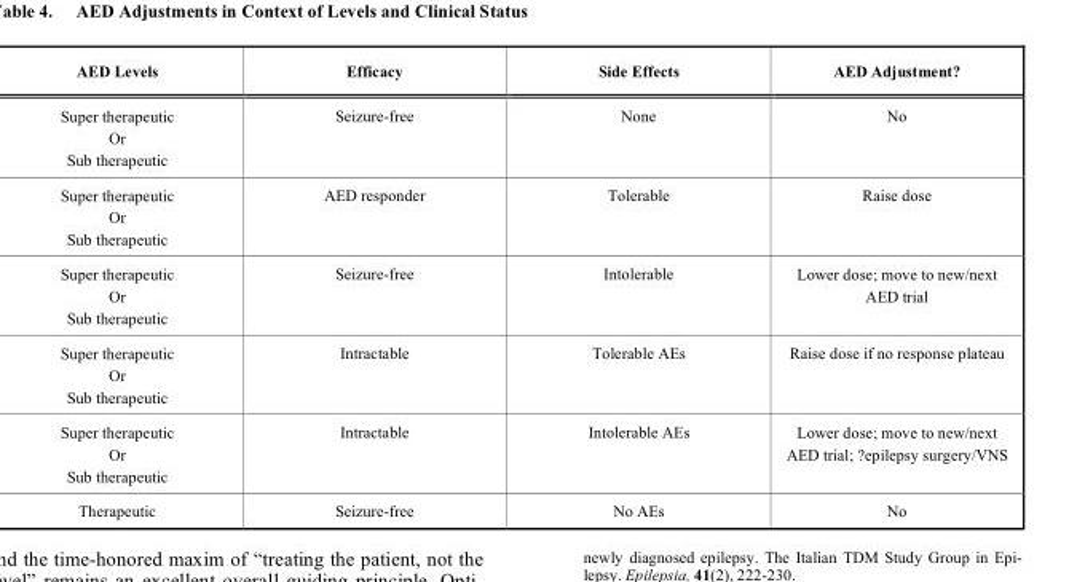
<table><thead><tr><td>AED Levels</td><td>Efficacy</td><td>Side Effects</td><td>AED Adjustment?</td></tr></thead><tbody><tr><td>Super therapeutic Or Sub therapeutic</td><td>Seizure-free</td><td>None</td><td>No</td></tr><tr><td>Super therapeutic Or Sub therapeutic</td><td>AED responder</td><td>Tolerable</td><td>Raise dose</td></tr><tr><td>Super therapeutic Or Sub therapeutic</td><td>Seizure-free</td><td>Intolerable</td><td>Lower dose; move to new/next AED trial</td></tr><tr><td>Super therapeutic Or Sub therapeutic</td><td>Intractable</td><td>Tolerable AEs</td><td>Raise dose if no response plateau</td></tr><tr><td>Super therapeutic Or Sub therapeutic</td><td>Intractable</td><td>Intolerable AEs</td><td>Lower dose; move to new/next AED trial; ?epilepsy surgery/VNS</td></tr><tr><td>Therapeutic</td><td>Seizure-free</td><td>No AEs</td><td>No</td></tr></tbody></table>